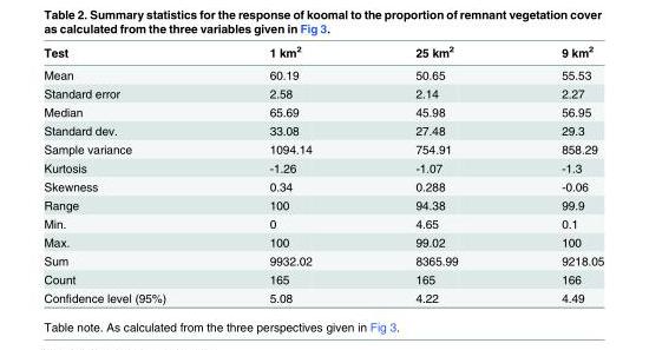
<table><thead><tr><td>Test</td><td>1 km<sup>2</sup></td><td>25 km<sup>2</sup></td><td>9 km<sup>2</sup></td></tr></thead><tbody><tr><td>Mean</td><td>60.19</td><td>50.65</td><td>55.53</td></tr><tr><td>Standard error</td><td>2.58</td><td>2.14</td><td>2.27</td></tr><tr><td>Median</td><td>65.69</td><td>45.98</td><td>56.95</td></tr><tr><td>Standard dev.</td><td>33.08</td><td>27.48</td><td>29.3</td></tr><tr><td>Sample variance</td><td>1094.14</td><td>754.91</td><td>858.29</td></tr><tr><td>Kurtosis</td><td>-1.26</td><td>-1.07</td><td>-1.3</td></tr><tr><td>Skewness</td><td>0.34</td><td>0.288</td><td>-0.06</td></tr><tr><td>Range</td><td>100</td><td>94.38</td><td>99.9</td></tr><tr><td>Min.</td><td>0</td><td>4.65</td><td>0.1</td></tr><tr><td>Max.</td><td>100</td><td>99.02</td><td>100</td></tr><tr><td>Sum</td><td>9932.02</td><td>8365.99</td><td>9218.05</td></tr><tr><td>Count</td><td>165</td><td>165</td><td>166</td></tr><tr><td>Confidence level (95%)</td><td>5.08</td><td>4.22</td><td>4.49</td></tr></tbody></table>